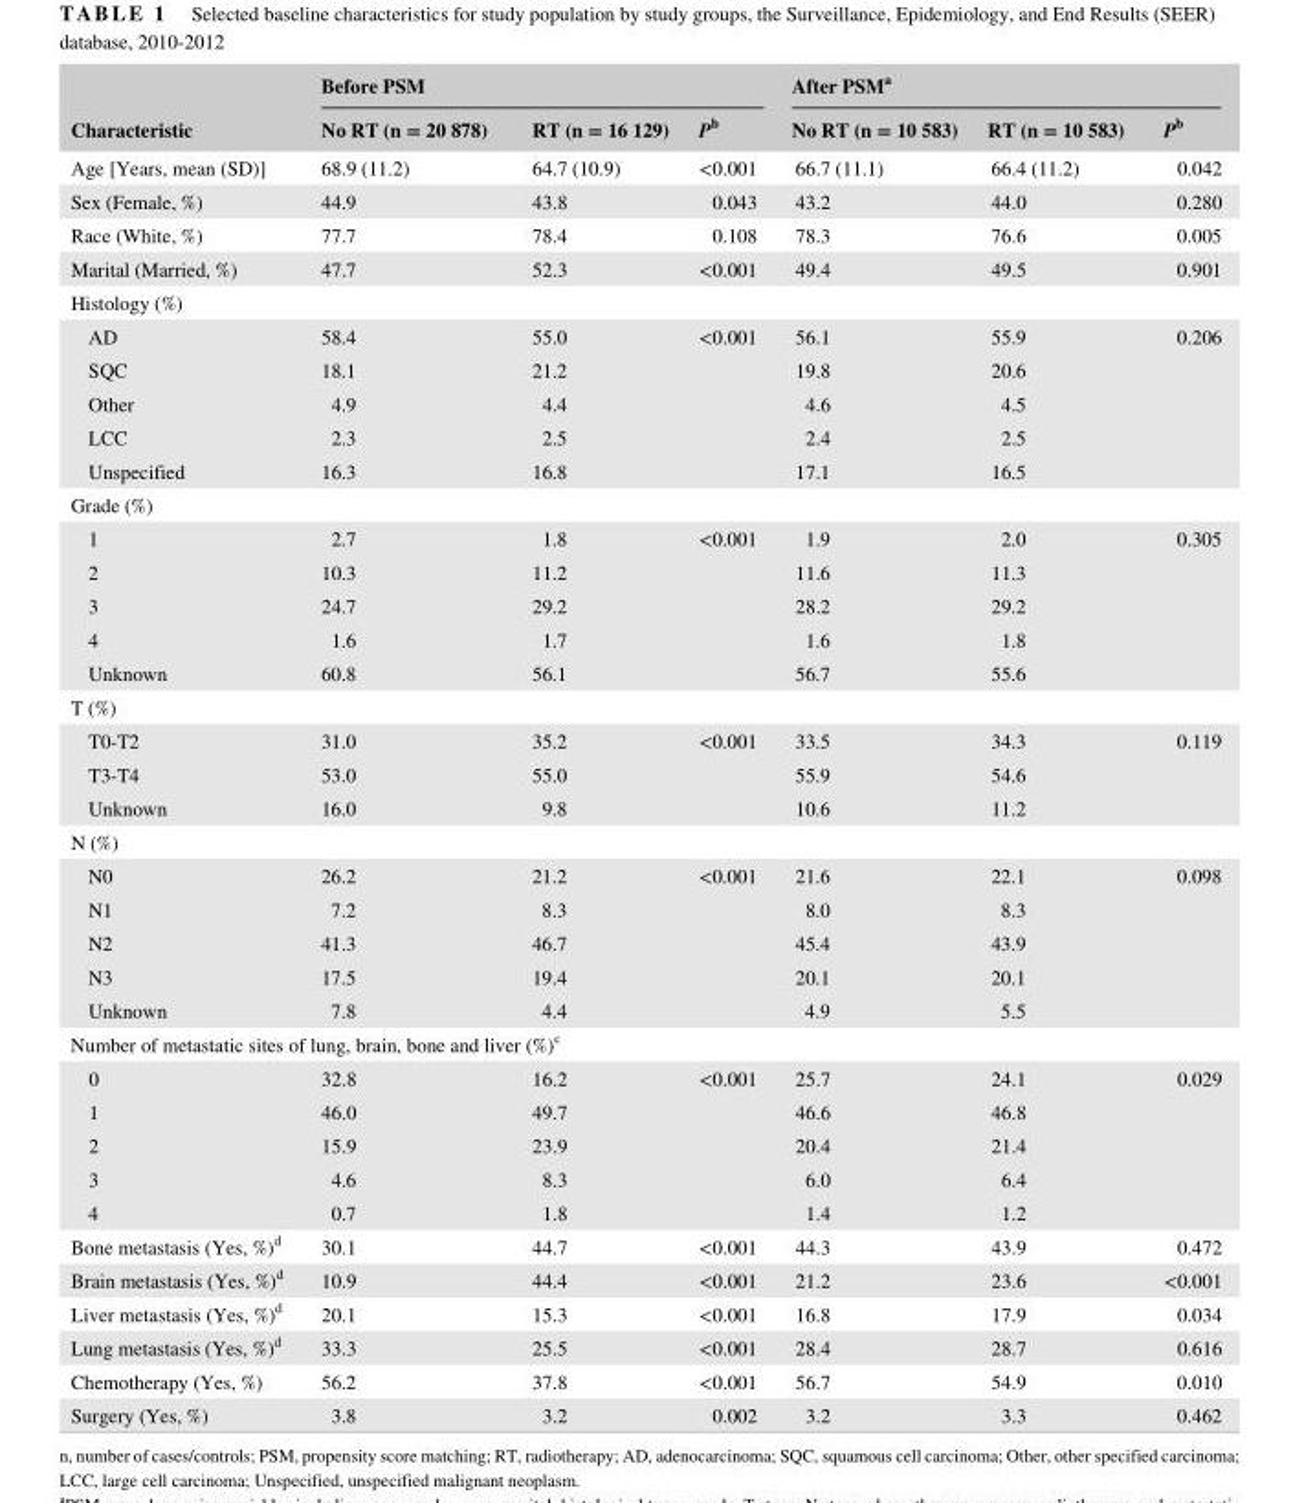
<table><thead><tr><td rowspan="2">Characteristic</td><td colspan="3">Before PSM</td><td colspan="3">After PSM<sup>a</sup></td></tr><tr><td>No RT (n = 20 878)</td><td>RT (n = 16 129)</td><td>Pb</td><td>No RT (n = 10 583)</td><td>RT (n = 10 583)</td><td>Pb</td></tr></thead><tbody><tr><td>Age [Years, mean (SD)]</td><td>68.9 (11.2)</td><td>64.7 (10.9)</td><td>&lt;0.001</td><td>66.7 (11.1)</td><td>66.4 (11.2)</td><td>0.042</td></tr><tr><td>Sex (Female, %)</td><td>44.9</td><td>43.8</td><td>0.043</td><td>43.2</td><td>44.0</td><td>0.280</td></tr><tr><td>Race (White, %)</td><td>77.7</td><td>78.4</td><td>0.108</td><td>78.3</td><td>76.6</td><td>0.005</td></tr><tr><td>Marital (Married, %)</td><td>47.7</td><td>52.3</td><td>&lt;0.001</td><td>49.4</td><td>49.5</td><td>0.901</td></tr><tr><td colspan="7">Histology (%)</td></tr><tr><td>AD</td><td>58.4</td><td>55.0</td><td rowspan="5">&lt;0.001</td><td>56.1</td><td>55.9</td><td rowspan="5">0.206</td></tr><tr><td>SQC</td><td>18.1</td><td>21.2</td><td>19.8</td><td>20.6</td></tr><tr><td>Other</td><td>4.9</td><td>4.4</td><td>4.6</td><td>4.5</td></tr><tr><td>LCC</td><td>2.3</td><td>2.5</td><td>2.4</td><td>2.5</td></tr><tr><td>Unspecified</td><td>16.3</td><td>16.8</td><td>17.1</td><td>16.5</td></tr><tr><td colspan="7">Grade (%)</td></tr><tr><td>1</td><td>2.7</td><td>1.8</td><td rowspan="5">&lt;0.001</td><td>1.9</td><td>2.0</td><td rowspan="5">0.305</td></tr><tr><td>2</td><td>10.3</td><td>11.2</td><td>11.6</td><td>11.3</td></tr><tr><td>3</td><td>24.7</td><td>29.2</td><td>28.2</td><td>29.2</td></tr><tr><td>4</td><td>1.6</td><td>1.7</td><td>1.6</td><td>1.8</td></tr><tr><td>Unknown</td><td>60.8</td><td>56.1</td><td>56.7</td><td>55.6</td></tr><tr><td colspan="7">T (%)</td></tr><tr><td>T0- T2</td><td>31.0</td><td>35.2</td><td rowspan="3">&lt;0.001</td><td>33.5</td><td>34.3</td><td rowspan="3">0.119</td></tr><tr><td>T3- T4</td><td>53.0</td><td>55.0</td><td>55.9</td><td>54.6</td></tr><tr><td>Unknown</td><td>16.0</td><td>9.8</td><td>10.6</td><td>11.2</td></tr><tr><td colspan="7">N (%)</td></tr><tr><td>N0</td><td>26.2</td><td>21.2</td><td rowspan="5">&lt;0.001</td><td>21.6</td><td>22.1</td><td rowspan="5">0.098</td></tr><tr><td>N1</td><td>7.2</td><td>8.3</td><td>8.0</td><td>8.3</td></tr><tr><td>N2</td><td>41.3</td><td>46.7</td><td>45.4</td><td>43.9</td></tr><tr><td>N3</td><td>17.5</td><td>19.4</td><td>20.1</td><td>20.1</td></tr><tr><td>Unknown</td><td>7.8</td><td>4.4</td><td>4.9</td><td>5.5</td></tr><tr><td colspan="7">Number of metastatic sites of lung, brain, bone and liver (%)<sup>c</sup></td></tr><tr><td>0</td><td>32.8</td><td>16.2</td><td rowspan="5">&lt;0.001</td><td>25.7</td><td>24.1</td><td rowspan="5">0.029</td></tr><tr><td>1</td><td>46.0</td><td>49.7</td><td>46.6</td><td>46.8</td></tr><tr><td>2</td><td>15.9</td><td>23.9</td><td>20.4</td><td>21.4</td></tr><tr><td>3</td><td>4.6</td><td>8.3</td><td>6.0</td><td>6.4</td></tr><tr><td>4</td><td>0.7</td><td>1.8</td><td>1.4</td><td>1.2</td></tr><tr><td>Bone metastasis (Yes, %)<sup>d</sup></td><td>30.1</td><td>44.7</td><td>&lt;0.001</td><td>44.3</td><td>43.9</td><td>0.472</td></tr><tr><td>Brain metastasis (Yes, %)<sup>d</sup></td><td>10.9</td><td>44.4</td><td>&lt;0.001</td><td>21.2</td><td>23.6</td><td>&lt;0.001</td></tr><tr><td>Liver metastasis (Yes, %)<sup>d</sup></td><td>20.1</td><td>15.3</td><td>&lt;0.001</td><td>16.8</td><td>17.9</td><td>0.034</td></tr><tr><td>Lung metastasis (Yes, %)<sup>d</sup></td><td>33.3</td><td>25.5</td><td>&lt;0.001</td><td>28.4</td><td>28.7</td><td>0.616</td></tr><tr><td>Chemotherapy (Yes, %)</td><td>56.2</td><td>37.8</td><td>&lt;0.001</td><td>56.7</td><td>54.9</td><td>0.010</td></tr><tr><td>Surgery (Yes, %)</td><td>3.8</td><td>3.2</td><td>0.002</td><td>3.2</td><td>3.3</td><td>0.462</td></tr></tbody></table>